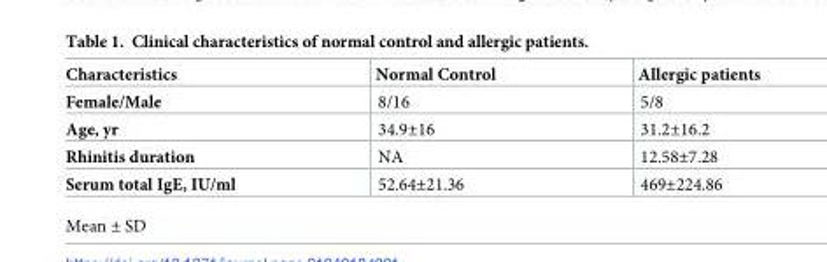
<table><thead><tr><td>Characteristics</td><td>Normal Control</td><td>Allergic patients</td></tr></thead><tbody><tr><td>Female/Male</td><td>8/16</td><td>5/8</td></tr><tr><td>Age, yr</td><td>34.9±16</td><td>31.2±16.2</td></tr><tr><td>Rhinitis duration</td><td>NA</td><td>12.58±7.28</td></tr><tr><td>Serum total IgE, IU/ml</td><td>52.64±21.36</td><td>469±224.86</td></tr></tbody></table>